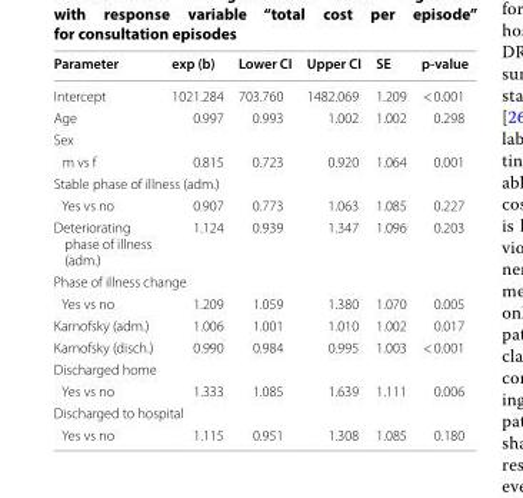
<table><thead><tr><td>Parameter</td><td>exp (b)</td><td>Lower CI</td><td>Upper CI</td><td>SE</td><td>p-value</td></tr></thead><tbody><tr><td>Intercept</td><td>1021.284</td><td>703.760</td><td>1482.069</td><td>1.209</td><td>&lt; 0.001</td></tr><tr><td>Age</td><td>0.997</td><td>0.993</td><td>1.002</td><td>1.002</td><td>0.298</td></tr><tr><td colspan="6">Sex</td></tr><tr><td>m vs f</td><td>0.815</td><td>0.723</td><td>0.920</td><td>1.064</td><td>0.001</td></tr><tr><td colspan="6">Stable phase of illness (adm.)</td></tr><tr><td>Yes vs no</td><td>0.907</td><td>0.773</td><td>1.063</td><td>1.085</td><td>0.227</td></tr><tr><td>Deteriorating phase of illness (adm.)</td><td>1.124</td><td>0.939</td><td>1.347</td><td>1.096</td><td>0.203</td></tr><tr><td colspan="6">Phase of illness change</td></tr><tr><td>Yes vs no</td><td>1.209</td><td>1.059</td><td>1.380</td><td>1.070</td><td>0.005</td></tr><tr><td>Karnofsky (adm.)</td><td>1.006</td><td>1.001</td><td>1.010</td><td>1.002</td><td>0.017</td></tr><tr><td>Karnofsky (disch.)</td><td>0.990</td><td>0.984</td><td>0.995</td><td>1.003</td><td>&lt; 0.001</td></tr><tr><td colspan="6">Discharged home</td></tr><tr><td>Yes vs no</td><td>1.333</td><td>1.085</td><td>1.639</td><td>1.111</td><td>0.006</td></tr><tr><td colspan="6">Discharged to hospital</td></tr><tr><td>Yes vs no</td><td>1.115</td><td>0.951</td><td>1.308</td><td>1.085</td><td>0.180</td></tr></tbody></table>